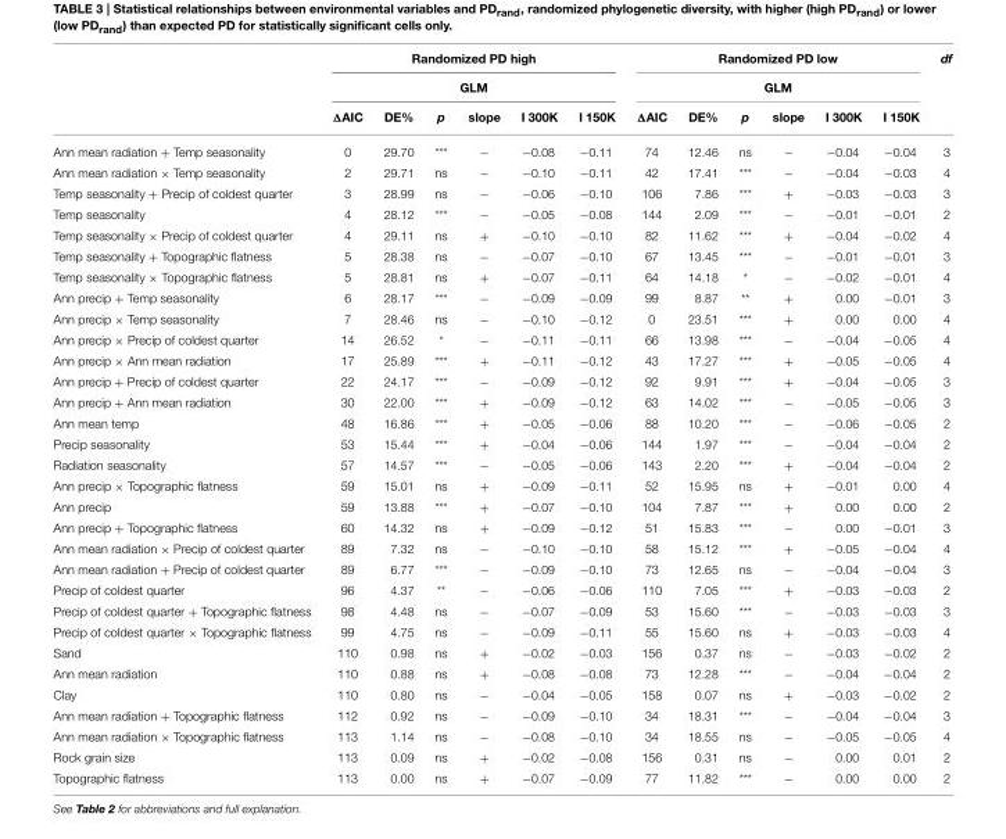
<table><thead><tr><td rowspan="3"></td><td rowspan="2" colspan="6">Randomized PD high GLM</td><td rowspan="2" colspan="6">Randomized PD low GLM</td><td rowspan="3">df</td></tr><tr></tr><tr><td>ΔAIC</td><td>DE%</td><td>p</td><td>slope</td><td>I 300K</td><td>I 150K</td><td>ΔAIC</td><td>DE%</td><td>p</td><td>slope</td><td>I 300K</td><td>I 150K</td></tr></thead><tbody><tr><td>Ann mean radiation + Temp seasonality</td><td>0</td><td>29.70</td><td>***</td><td>−</td><td>−0.08</td><td>−0.11</td><td>74</td><td>12.46</td><td>ns</td><td>−</td><td>−0.04</td><td>−0.04</td><td>3</td></tr><tr><td>Ann mean radiation × Temp seasonality</td><td>2</td><td>29.71</td><td>ns</td><td>−</td><td>−0.10</td><td>−0.11</td><td>42</td><td>17.41</td><td>***</td><td>−</td><td>−0.04</td><td>−0.03</td><td>4</td></tr><tr><td>Temp seasonality + Precip of coldest quarter</td><td>3</td><td>28.99</td><td>ns</td><td>−</td><td>−0.06</td><td>−0.10</td><td>106</td><td>7.86</td><td>***</td><td>+</td><td>−0.03</td><td>−0.03</td><td>3</td></tr><tr><td>Temp seasonality</td><td>4</td><td>28.12</td><td>***</td><td>−</td><td>−0.05</td><td>−0.08</td><td>144</td><td>2.09</td><td>***</td><td>−</td><td>−0.01</td><td>−0.01</td><td>2</td></tr><tr><td>Temp seasonality × Precip of coldest quarter</td><td>4</td><td>29.11</td><td>ns</td><td>+</td><td>−0.10</td><td>−0.10</td><td>82</td><td>11.62</td><td>***</td><td>+</td><td>−0.04</td><td>−0.02</td><td>4</td></tr><tr><td>Temp seasonality + Topographic flatness</td><td>5</td><td>28.38</td><td>ns</td><td>−</td><td>−0.07</td><td>−0.10</td><td>67</td><td>13.45</td><td>***</td><td>−</td><td>−0.01</td><td>−0.01</td><td>3</td></tr><tr><td>Temp seasonality × Topographic flatness</td><td>5</td><td>28.81</td><td>ns</td><td>+</td><td>−0.07</td><td>−0.11</td><td>64</td><td>14.18</td><td>*</td><td>−</td><td>−0.02</td><td>−0.01</td><td>4</td></tr><tr><td>Ann precip + Temp seasonality</td><td>6</td><td>28.17</td><td>***</td><td>−</td><td>−0.09</td><td>−0.09</td><td>99</td><td>8.87</td><td>**</td><td>+</td><td>0.00</td><td>−0.01</td><td>3</td></tr><tr><td>Ann precip × Temp seasonality</td><td>7</td><td>28.46</td><td>ns</td><td>−</td><td>−0.10</td><td>−0.12</td><td>0</td><td>23.51</td><td>***</td><td>+</td><td>0.00</td><td>0.00</td><td>4</td></tr><tr><td>Ann precip × Precip of coldest quarter</td><td>14</td><td>26.52</td><td>*</td><td>−</td><td>−0.11</td><td>−0.11</td><td>66</td><td>13.98</td><td>***</td><td>−</td><td>−0.04</td><td>−0.05</td><td>4</td></tr><tr><td>Ann precip × Ann mean radiation</td><td>17</td><td>25.89</td><td>***</td><td>+</td><td>−0.11</td><td>−0.12</td><td>43</td><td>17.27</td><td>***</td><td>+</td><td>−0.05</td><td>−0.05</td><td>4</td></tr><tr><td>Ann precip + Precip of coldest quarter</td><td>22</td><td>24.17</td><td>***</td><td>−</td><td>−0.09</td><td>−0.12</td><td>92</td><td>9.91</td><td>***</td><td>+</td><td>−0.04</td><td>−0.05</td><td>3</td></tr><tr><td>Ann precip + Ann mean radiation</td><td>30</td><td>22.00</td><td>***</td><td>+</td><td>−0.09</td><td>−0.12</td><td>63</td><td>14.02</td><td>***</td><td>−</td><td>−0.05</td><td>−0.05</td><td>3</td></tr><tr><td>Ann mean temp</td><td>48</td><td>16.86</td><td>***</td><td>+</td><td>−0.05</td><td>−0.06</td><td>88</td><td>10.20</td><td>***</td><td>−</td><td>−0.06</td><td>−0.05</td><td>2</td></tr><tr><td>Precip seasonality</td><td>53</td><td>15.44</td><td>***</td><td>+</td><td>−0.04</td><td>−0.06</td><td>144</td><td>1.97</td><td>***</td><td>−</td><td>−0.04</td><td>−0.04</td><td>2</td></tr><tr><td>Radiation seasonality</td><td>57</td><td>14.57</td><td>***</td><td>−</td><td>−0.05</td><td>−0.06</td><td>143</td><td>2.20</td><td>***</td><td>+</td><td>−0.04</td><td>−0.04</td><td>2</td></tr><tr><td>Ann precip × Topographic flatness</td><td>59</td><td>15.01</td><td>ns</td><td>+</td><td>−0.09</td><td>−0.11</td><td>52</td><td>15.95</td><td>ns</td><td>+</td><td>−0.01</td><td>0.00</td><td>4</td></tr><tr><td>Ann precip</td><td>59</td><td>13.88</td><td>***</td><td>+</td><td>−0.07</td><td>−0.10</td><td>104</td><td>7.87</td><td>***</td><td>+</td><td>0.00</td><td>0.00</td><td>2</td></tr><tr><td>Ann precip + Topographic flatness</td><td>60</td><td>14.32</td><td>ns</td><td>+</td><td>−0.09</td><td>−0.12</td><td>51</td><td>15.83</td><td>***</td><td>−</td><td>0.00</td><td>−0.01</td><td>3</td></tr><tr><td>Ann mean radiation × Precip of coldest quarter</td><td>89</td><td>7.32</td><td>ns</td><td>−</td><td>−0.10</td><td>−0.10</td><td>58</td><td>15.12</td><td>***</td><td>+</td><td>−0.05</td><td>−0.04</td><td>4</td></tr><tr><td>Ann mean radiation + Precip of coldest quarter</td><td>89</td><td>6.77</td><td>***</td><td>−</td><td>−0.09</td><td>−0.10</td><td>73</td><td>12.65</td><td>ns</td><td>−</td><td>−0.04</td><td>−0.04</td><td>3</td></tr><tr><td>Precip of coldest quarter</td><td>96</td><td>4.37</td><td>**</td><td>−</td><td>−0.06</td><td>−0.06</td><td>110</td><td>7.05</td><td>***</td><td>+</td><td>−0.03</td><td>−0.03</td><td>2</td></tr><tr><td>Precip of coldest quarter + Topographic flatness</td><td>98</td><td>4.48</td><td>ns</td><td>−</td><td>−0.07</td><td>−0.09</td><td>53</td><td>15.60</td><td>***</td><td>−</td><td>−0.03</td><td>−0.03</td><td>3</td></tr><tr><td>Precip of coldest quarter × Topographic flatness</td><td>99</td><td>4.75</td><td>ns</td><td>−</td><td>−0.09</td><td>−0.11</td><td>55</td><td>15.60</td><td>ns</td><td>+</td><td>−0.03</td><td>−0.03</td><td>4</td></tr><tr><td>Sand</td><td>110</td><td>0.98</td><td>ns</td><td>+</td><td>−0.02</td><td>−0.03</td><td>156</td><td>0.37</td><td>ns</td><td>−</td><td>−0.03</td><td>−0.02</td><td>2</td></tr><tr><td>Ann mean radiation</td><td>110</td><td>0.88</td><td>ns</td><td>+</td><td>−0.08</td><td>−0.08</td><td>73</td><td>12.28</td><td>***</td><td>−</td><td>−0.04</td><td>−0.04</td><td>2</td></tr><tr><td>Clay</td><td>110</td><td>0.80</td><td>ns</td><td>−</td><td>−0.04</td><td>−0.05</td><td>158</td><td>0.07</td><td>ns</td><td>+</td><td>−0.03</td><td>−0.02</td><td>2</td></tr><tr><td>Ann mean radiation + Topographic flatness</td><td>112</td><td>0.92</td><td>ns</td><td>−</td><td>−0.09</td><td>−0.10</td><td>34</td><td>18.31</td><td>***</td><td>−</td><td>−0.04</td><td>−0.04</td><td>3</td></tr><tr><td>Ann mean radiation × Topographic flatness</td><td>113</td><td>1.14</td><td>ns</td><td>−</td><td>−0.08</td><td>−0.10</td><td>34</td><td>18.55</td><td>ns</td><td>−</td><td>−0.05</td><td>−0.05</td><td>4</td></tr><tr><td>Rock grain size</td><td>113</td><td>0.09</td><td>ns</td><td>+</td><td>−0.02</td><td>−0.08</td><td>156</td><td>0.31</td><td>ns</td><td>−</td><td>0.00</td><td>0.01</td><td>2</td></tr><tr><td>Topographic flatness</td><td>113</td><td>0.00</td><td>ns</td><td>+</td><td>−0.07</td><td>−0.09</td><td>77</td><td>11.82</td><td>***</td><td>−</td><td>0.00</td><td>0.00</td><td>2</td></tr></tbody></table>